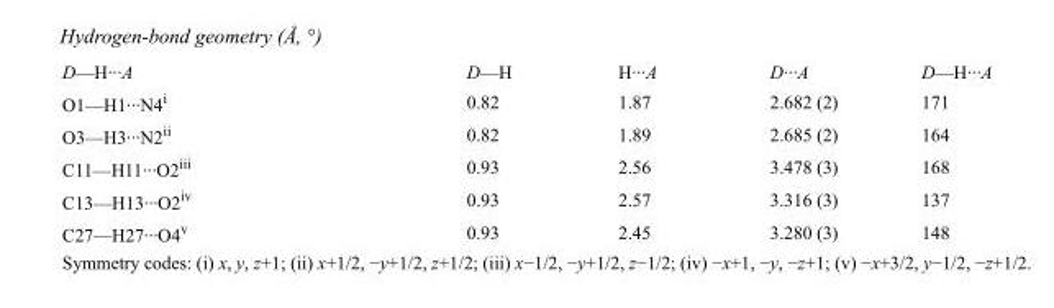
<table><tbody><tr><td>D—H···A</td><td>D—H</td><td>H···A</td><td>D···A</td><td>D—H···A</td></tr><tr><td>O1—H1···N4<sup>i</sup></td><td>0.82</td><td>1.87</td><td>2.682 (2)</td><td>171</td></tr><tr><td>O3—H3···N2<sup>ii</sup></td><td>0.82</td><td>1.89</td><td>2.685 (2)</td><td>164</td></tr><tr><td>C11—H11···O2<sup>iii</sup></td><td>0.93</td><td>2.56</td><td>3.478 (3)</td><td>168</td></tr><tr><td>C13—H13···O2<sup>iv</sup></td><td>0.93</td><td>2.57</td><td>3.316 (3)</td><td>137</td></tr><tr><td>C27—H27···O4<sup>v</sup></td><td>0.93</td><td>2.45</td><td>3.280 (3)</td><td>148</td></tr></tbody></table>